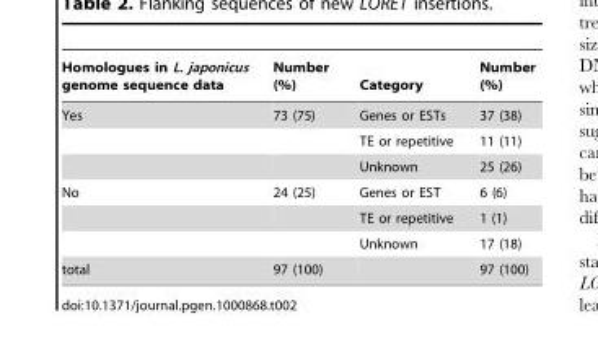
<table><thead><tr><td>Homologues in L. japonicus genome sequence data</td><td>Number (%)</td><td>Category</td><td>Number (%)</td></tr></thead><tbody><tr><td rowspan="3">Yes</td><td>73 (75)</td><td>Genes or ESTs</td><td>37 (38)</td></tr><tr><td></td><td>TE or repetitive</td><td>11 (11)</td></tr><tr><td></td><td>Unknown</td><td>25 (26)</td></tr><tr><td rowspan="3">No</td><td>24 (25)</td><td>Genes or EST</td><td>6 (6)</td></tr><tr><td></td><td>TE or repetitive</td><td>1 (1)</td></tr><tr><td></td><td>Unknown</td><td>17 (18)</td></tr><tr><td>total</td><td>97 (100)</td><td></td><td>97 (100)</td></tr></tbody></table>